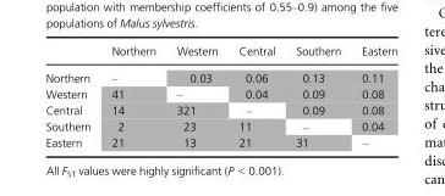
<table><thead><tr><td></td><td>Northern</td><td>Western</td><td>Central</td><td>Southern</td><td>Eastern</td></tr></thead><tbody><tr><td>Northern</td><td>–</td><td>0.03</td><td>0.06</td><td>0.13</td><td>0.11</td></tr><tr><td>Western</td><td>41</td><td>–</td><td>0.04</td><td>0.09</td><td>0.08</td></tr><tr><td>Central</td><td>14</td><td>321</td><td>–</td><td>0.09</td><td>0.08</td></tr><tr><td>Southern</td><td>2</td><td>23</td><td>11</td><td>–</td><td>0.04</td></tr><tr><td>Eastern</td><td>21</td><td>13</td><td>21</td><td>31</td><td>–</td></tr></tbody></table>